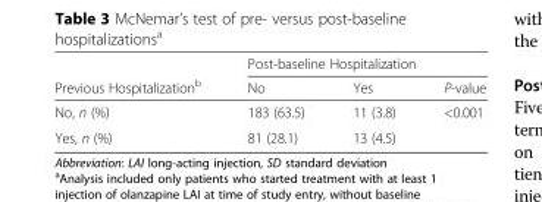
<table><thead><tr><td rowspan="2">Previous Hospitalization<sup>b</sup></td><td colspan="3">Post-baseline Hospitalization</td></tr><tr><td>No</td><td>Yes</td><td>P-value</td></tr></thead><tbody><tr><td>No, n (%)</td><td>183 (63.5)</td><td>11 (3.8)</td><td>&lt;0.001</td></tr><tr><td>Yes, n (%)</td><td>81 (28.1)</td><td>13 (4.5)</td><td></td></tr></tbody></table>